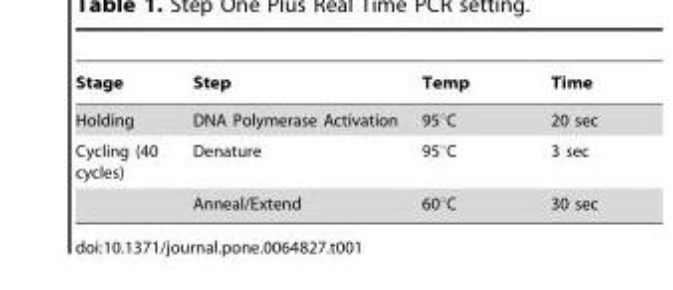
<table><thead><tr><td>Stage</td><td>Step</td><td>Temp</td><td>Time</td></tr></thead><tbody><tr><td>Holding</td><td>DNA Polymerase Activation</td><td>95°C</td><td>20 sec</td></tr><tr><td rowspan="2">Cycling (40 cycles)</td><td>Denature</td><td>95°C</td><td>3 sec</td></tr><tr><td>Anneal/Extend</td><td>60°C</td><td>30 sec</td></tr></tbody></table>